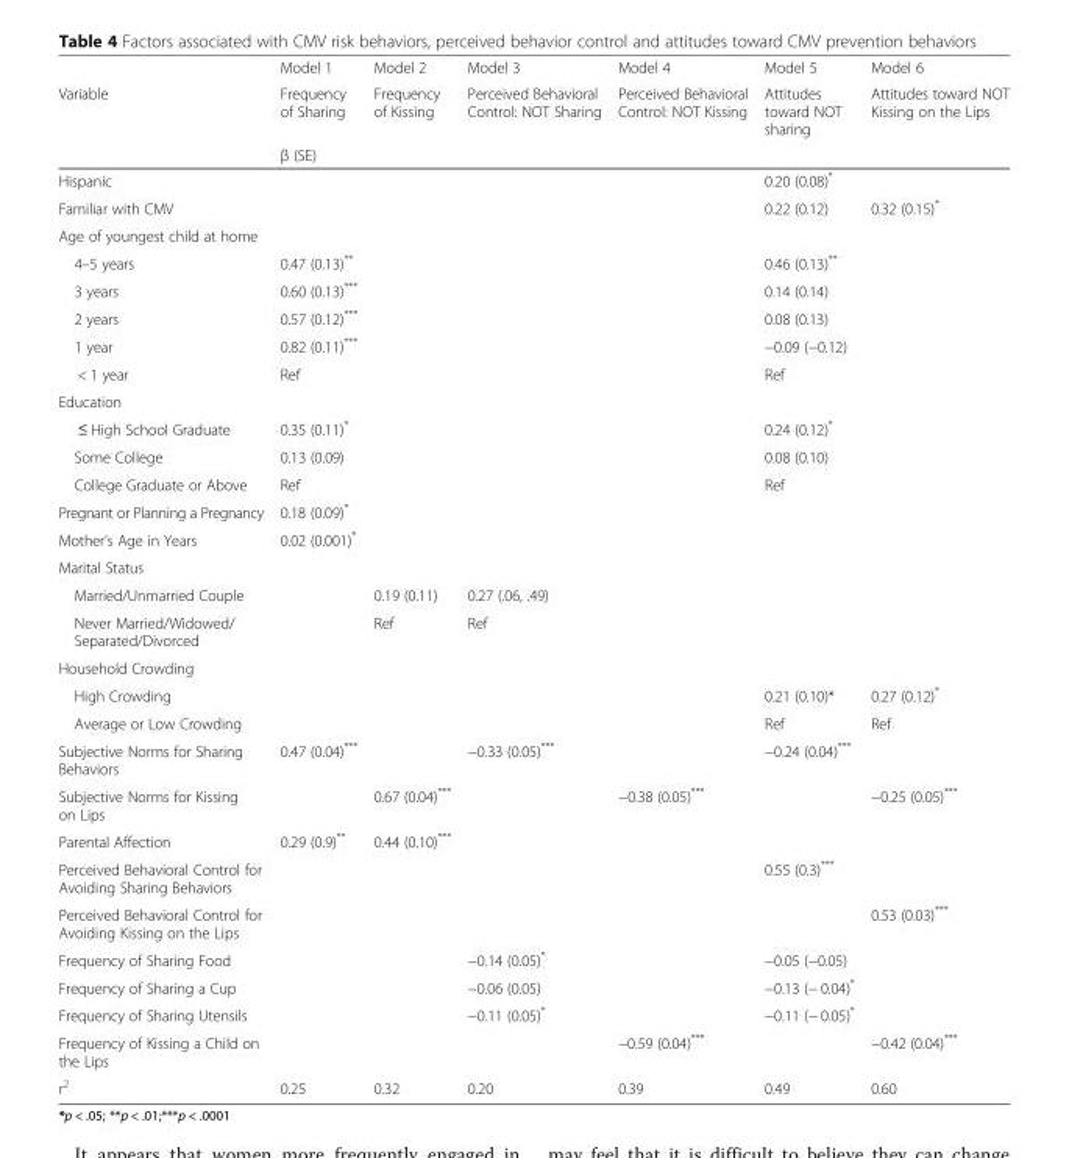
<table><thead><tr><td rowspan="3">Variable</td><td rowspan="2">Model 1 Frequency of Sharing</td><td rowspan="2">Model 2 Frequency of Kissing</td><td rowspan="2">Model 3 Perceived Behavioral Control: NOT Sharing</td><td rowspan="2">Model 4 Perceived Behavioral Control: NOT Kissing</td><td rowspan="2">Model 5 Attitudes toward NOT sharing</td><td rowspan="2">Model 6 Attitudes toward NOT Kissing on the Lips</td></tr><tr></tr><tr><td colspan="6">β (SE)</td></tr></thead><tbody><tr><td>Hispanic</td><td></td><td></td><td></td><td></td><td>0.20 (0.08)*</td><td></td></tr><tr><td>Familiar with CMV</td><td></td><td></td><td></td><td></td><td>0.22 (0.12)</td><td>0.32 (0.15)*</td></tr><tr><td colspan="7">Age of youngest child at home</td></tr><tr><td>4–5 years</td><td>0.47 (0.13)**</td><td></td><td></td><td></td><td>0.46 (0.13)**</td><td></td></tr><tr><td>3 years</td><td>0.60 (0.13)***</td><td></td><td></td><td></td><td>0.14 (0.14)</td><td></td></tr><tr><td>2 years</td><td>0.57 (0.12)***</td><td></td><td></td><td></td><td>0.08 (0.13)</td><td></td></tr><tr><td>1 year</td><td>0.82 (0.11)***</td><td></td><td></td><td></td><td>−0.09 (−0.12)</td><td></td></tr><tr><td>&lt; 1 year</td><td>Ref</td><td></td><td></td><td></td><td>Ref</td><td></td></tr><tr><td colspan="7">Education</td></tr><tr><td>≤ High School Graduate</td><td>0.35 (0.11)*</td><td></td><td></td><td></td><td>0.24 (0.12)*</td><td></td></tr><tr><td>Some College</td><td>0.13 (0.09)</td><td></td><td></td><td></td><td>0.08 (0.10)</td><td></td></tr><tr><td>College Graduate or Above</td><td>Ref</td><td></td><td></td><td></td><td>Ref</td><td></td></tr><tr><td>Pregnant or Planning a Pregnancy</td><td>0.18 (0.09)*</td><td></td><td></td><td></td><td></td><td></td></tr><tr><td>Mother’s Age in Years</td><td>0.02 (0.001)*</td><td></td><td></td><td></td><td></td><td></td></tr><tr><td colspan="7">Marital Status</td></tr><tr><td>Married/Unmarried Couple</td><td></td><td>0.19 (0.11)</td><td>0.27 (.06, .49)</td><td></td><td></td><td></td></tr><tr><td>Never Married/Widowed/ Separated/Divorced</td><td></td><td>Ref</td><td>Ref</td><td></td><td></td><td></td></tr><tr><td colspan="7">Household Crowding</td></tr><tr><td>High Crowding</td><td></td><td></td><td></td><td></td><td>0.21 (0.10)*</td><td>0.27 (0.12)*</td></tr><tr><td>Average or Low Crowding</td><td></td><td></td><td></td><td></td><td>Ref</td><td>Ref</td></tr><tr><td>Subjective Norms for Sharing Behaviors</td><td>0.47 (0.04)***</td><td></td><td>−0.33 (0.05)***</td><td></td><td>−0.24 (0.04)***</td><td></td></tr><tr><td>Subjective Norms for Kissing on Lips</td><td></td><td>0.67 (0.04)***</td><td></td><td>−0.38 (0.05)***</td><td></td><td>−0.25 (0.05)***</td></tr><tr><td>Parental Affection</td><td>0.29 (0.9)**</td><td>0.44 (0.10)***</td><td></td><td></td><td></td><td></td></tr><tr><td>Perceived Behavioral Control for Avoiding Sharing Behaviors</td><td></td><td></td><td></td><td></td><td>0.55 (0.3)***</td><td></td></tr><tr><td>Perceived Behavioral Control for Avoiding Kissing on the Lips</td><td></td><td></td><td></td><td></td><td></td><td>0.53 (0.03)***</td></tr><tr><td>Frequency of Sharing Food</td><td></td><td></td><td>−0.14 (0.05)*</td><td></td><td>−0.05 (−0.05)</td><td></td></tr><tr><td>Frequency of Sharing a Cup</td><td></td><td></td><td>−0.06 (0.05)</td><td></td><td>−0.13 (− 0.04)*</td><td></td></tr><tr><td>Frequency of Sharing Utensils</td><td></td><td></td><td>−0.11 (0.05)*</td><td></td><td>−0.11 (− 0.05)*</td><td></td></tr><tr><td>Frequency of Kissing a Child on the Lips</td><td></td><td></td><td></td><td>−0.59 (0.04)***</td><td></td><td>−0.42 (0.04)***</td></tr><tr><td>r<sup>2</sup></td><td>0.25</td><td>0.32</td><td>0.20</td><td>0.39</td><td>0.49</td><td>0.60</td></tr></tbody></table>